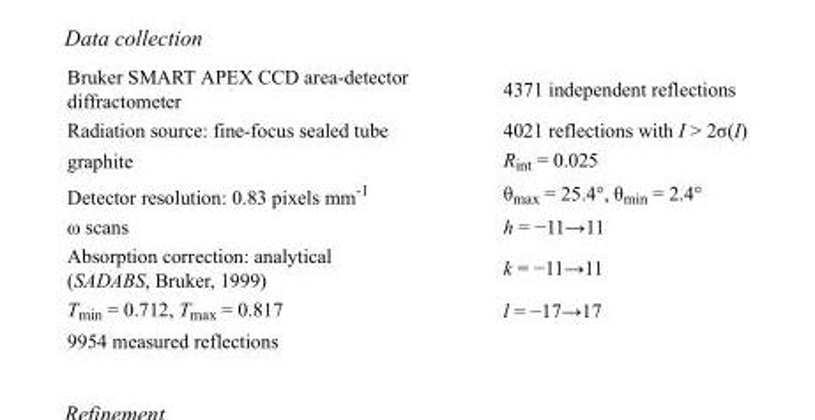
<table><tbody><tr><td>Bruker SMART APEX CCD area-detector diffractometer</td><td>4371 independent reflections</td></tr><tr><td>Radiation source: fine-focus sealed tube</td><td>4021 reflections with I &gt; 2σ(I)</td></tr><tr><td>graphite</td><td>R<sub>int</sub> = 0.025</td></tr><tr><td>Detector resolution: 0.83 pixels mm<sup>-1</sup></td><td>θ<sub>max</sub> = 25.4°, θ<sub>min</sub> = 2.4°</td></tr><tr><td>ω scans</td><td>h = −11→11</td></tr><tr><td>Absorption correction: analytical (SADABS, Bruker, 1999)</td><td>k = −11→11</td></tr><tr><td>T<sub>min</sub> = 0.712, T<sub>max</sub> = 0.817</td><td>l = −17→17</td></tr><tr><td>9954 measured reflections</td><td></td></tr></tbody></table>